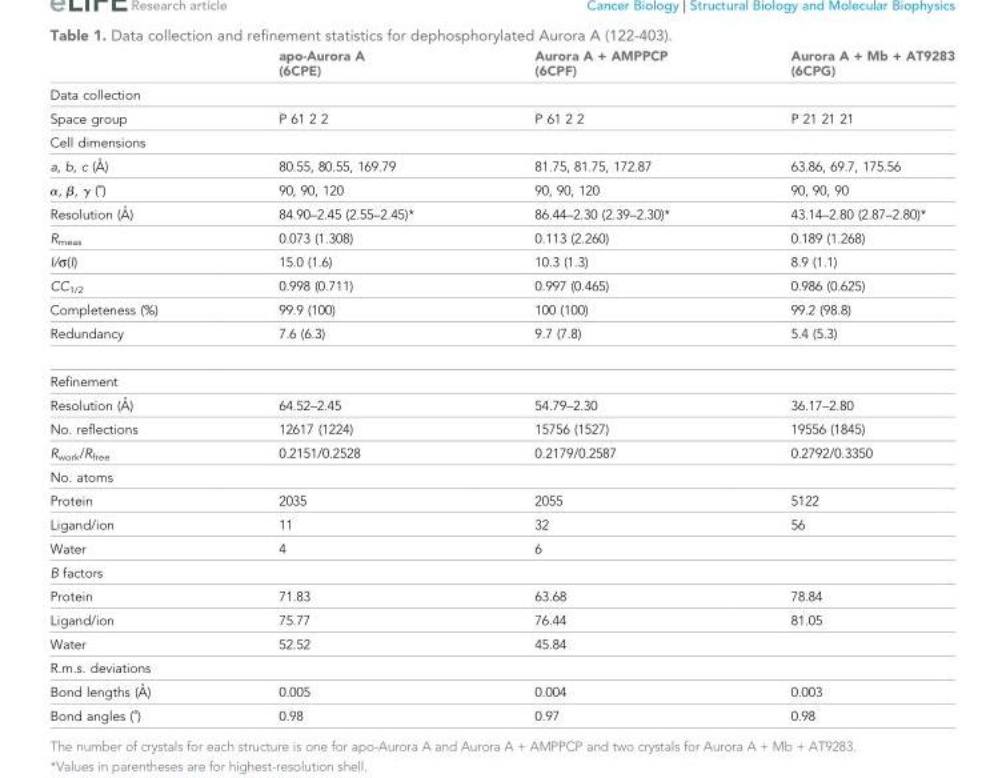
<table><thead><tr><td></td><td>apo-Aurora A (6CPE)</td><td>Aurora A + AMPPCP (6CPF)</td><td>Aurora A + Mb + AT9283 (6CPG)</td></tr></thead><tbody><tr><td colspan="4">Data collection</td></tr><tr><td>Space group</td><td>P 61 2 2</td><td>P 61 2 2</td><td>P 21 21 21</td></tr><tr><td colspan="4">Cell dimensions</td></tr><tr><td>a, b, c (A˚ )</td><td>80.55, 80.55, 169.79</td><td>81.75, 81.75, 172.87</td><td>63.86, 69.7, 175.56</td></tr><tr><td>α, β, γ (˚)</td><td>90, 90, 120</td><td>90, 90, 120</td><td>90, 90, 90</td></tr><tr><td>Resolution (A˚ )</td><td>84.90–2.45 (2.55–2.45)*</td><td>86.44–2.30 (2.39–2.30)*</td><td>43.14–2.80 (2.87–2.80)*</td></tr><tr><td>R<sub>meas</sub></td><td>0.073 (1.308)</td><td>0.113 (2.260)</td><td>0.189 (1.268)</td></tr><tr><td>I/σ(I)</td><td>15.0 (1.6)</td><td>10.3 (1.3)</td><td>8.9 (1.1)</td></tr><tr><td>CC<sub>1/2</sub></td><td>0.998 (0.711)</td><td>0.997 (0.465)</td><td>0.986 (0.625)</td></tr><tr><td>Completeness (%)</td><td>99.9 (100)</td><td>100 (100)</td><td>99.2 (98.8)</td></tr><tr><td>Redundancy</td><td>7.6 (6.3)</td><td>9.7 (7.8)</td><td>5.4 (5.3)</td></tr><tr><td colspan="4">Refinement</td></tr><tr><td>Resolution (A˚ )</td><td>64.52–2.45</td><td>54.79–2.30</td><td>36.17–2.80</td></tr><tr><td>No. reflections</td><td>12617 (1224)</td><td>15756 (1527)</td><td>19556 (1845)</td></tr><tr><td>R<sub>work</sub>/R<sub>free</sub></td><td>0.2151/0.2528</td><td>0.2179/0.2587</td><td>0.2792/0.3350</td></tr><tr><td colspan="4">No. atoms</td></tr><tr><td>Protein</td><td>2035</td><td>2055</td><td>5122</td></tr><tr><td>Ligand/ion</td><td>11</td><td>32</td><td>56</td></tr><tr><td>Water</td><td>4</td><td>6</td><td></td></tr><tr><td colspan="4">B factors</td></tr><tr><td>Protein</td><td>71.83</td><td>63.68</td><td>78.84</td></tr><tr><td>Ligand/ion</td><td>75.77</td><td>76.44</td><td>81.05</td></tr><tr><td>Water</td><td>52.52</td><td>45.84</td><td></td></tr><tr><td colspan="4">R.m.s. deviations</td></tr><tr><td>Bond lengths (A˚ )</td><td>0.005</td><td>0.004</td><td>0.003</td></tr><tr><td>Bond angles (˚)</td><td>0.98</td><td>0.97</td><td>0.98</td></tr></tbody></table>